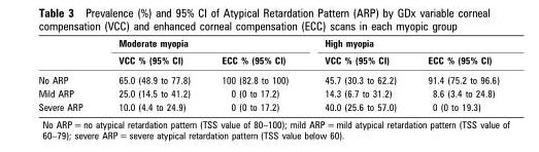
<table><thead><tr><td rowspan="2"></td><td colspan="2">Moderate myopia</td><td colspan="2">High myopia</td></tr><tr><td>VCC % (95% CI)</td><td>ECC % (95% CI)</td><td>VCC % (95% CI)</td><td>ECC % (95% CI)</td></tr></thead><tbody><tr><td>No ARP</td><td>65.0 (48.9 to 77.8)</td><td>100 (82.8 to 100)</td><td>45.7 (30.3 to 62.2)</td><td>91.4 (75.2 to 96.6)</td></tr><tr><td>Mild ARP</td><td>25.0 (14.5 to 41.2)</td><td>0 (0 to 17.2)</td><td>14.3 (6.7 to 31.2)</td><td>8.6 (3.4 to 24.8)</td></tr><tr><td>Severe ARP</td><td>10.0 (4.4 to 24.9)</td><td>0 (0 to 17.2)</td><td>40.0 (25.6 to 57.0)</td><td>0 (0 to 19.3)</td></tr></tbody></table>